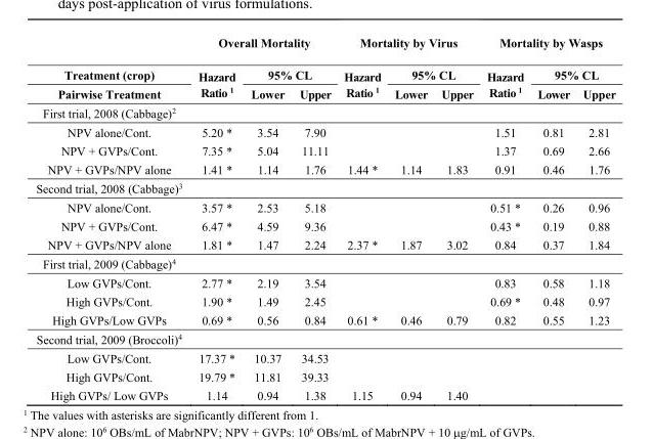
<table><thead><tr><td rowspan="3">Treatment (crop) Pairwise Treatment</td><td colspan="3">Overall Mortality</td><td colspan="3">Mortality by Virus</td><td colspan="3">Mortality by Wasps</td></tr><tr><td rowspan="2">Hazard Ratio <sup>1</sup></td><td colspan="2">95% CL</td><td rowspan="2">Hazard Ratio <sup>1</sup></td><td colspan="2">95% CL</td><td rowspan="2">Hazard Ratio <sup>1</sup></td><td colspan="2">95% CL</td></tr><tr><td>Lower</td><td>Upper</td><td>Lower</td><td>Upper</td><td>Lower</td><td>Upper</td></tr></thead><tbody><tr><td colspan="10">First trial, 2008 (Cabbage)<sup>2</sup></td></tr><tr><td>NPV alone/Cont.</td><td>5.20 *</td><td>3.54</td><td>7.90</td><td></td><td></td><td></td><td>1.51</td><td>0.81</td><td>2.81</td></tr><tr><td>NPV + GVPs/Cont.</td><td>7.35 *</td><td>5.04</td><td>11.11</td><td></td><td></td><td></td><td>1.37</td><td>0.69</td><td>2.66</td></tr><tr><td>NPV + GVPs/NPV alone</td><td>1.41 *</td><td>1.14</td><td>1.76</td><td>1.44 *</td><td>1.14</td><td>1.83</td><td>0.91</td><td>0.46</td><td>1.76</td></tr><tr><td colspan="10">Second trial, 2008 (Cabbage)<sup>3</sup></td></tr><tr><td>NPV alone/Cont.</td><td>3.57 *</td><td>2.53</td><td>5.18</td><td></td><td></td><td></td><td>0.51 *</td><td>0.26</td><td>0.96</td></tr><tr><td>NPV + GVPs/Cont.</td><td>6.47 *</td><td>4.59</td><td>9.36</td><td></td><td></td><td></td><td>0.43 *</td><td>0.19</td><td>0.88</td></tr><tr><td>NPV + GVPs/NPV alone</td><td>1.81 *</td><td>1.47</td><td>2.24</td><td>2.37 *</td><td>1.87</td><td>3.02</td><td>0.84</td><td>0.37</td><td>1.84</td></tr><tr><td colspan="10">First trial, 2009 (Cabbage)<sup>4</sup></td></tr><tr><td>Low GVPs/Cont.</td><td>2.77 *</td><td>2.19</td><td>3.54</td><td></td><td></td><td></td><td>0.83</td><td>0.58</td><td>1.18</td></tr><tr><td>High GVPs/Cont.</td><td>1.90 *</td><td>1.49</td><td>2.45</td><td></td><td></td><td></td><td>0.69 *</td><td>0.48</td><td>0.97</td></tr><tr><td>High GVPs/Low GVPs</td><td>0.69 *</td><td>0.56</td><td>0.84</td><td>0.61 *</td><td>0.46</td><td>0.79</td><td>0.82</td><td>0.55</td><td>1.23</td></tr><tr><td colspan="10">Second trial, 2009 (Broccoli)<sup>4</sup></td></tr><tr><td>Low GVPs/Cont.</td><td>17.37 *</td><td>10.37</td><td>34.53</td><td></td><td></td><td></td><td></td><td></td><td></td></tr><tr><td>High GVPs/Cont.</td><td>19.79 *</td><td>11.81</td><td>39.33</td><td></td><td></td><td></td><td></td><td></td><td></td></tr><tr><td>High GVPs/ Low GVPs</td><td>1.14</td><td>0.94</td><td>1.38</td><td>1.15</td><td>0.94</td><td>1.40</td><td></td><td></td><td></td></tr></tbody></table>